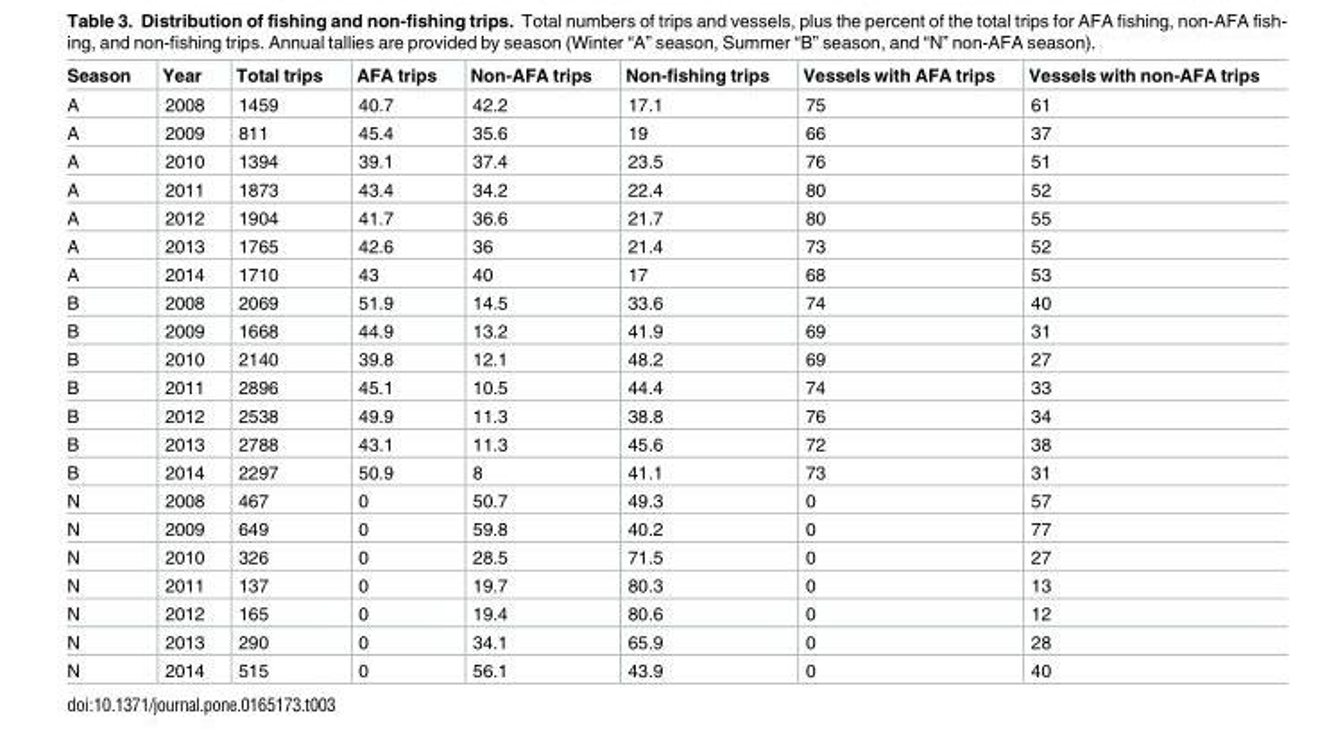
<table><thead><tr><td>Season</td><td>Year</td><td>Total trips</td><td>AFA trips</td><td>Non-AFA trips</td><td>Non-fishing trips</td><td>Vessels with AFA trips</td><td>Vessels with non-AFA trips</td></tr></thead><tbody><tr><td>A</td><td>2008</td><td>1459</td><td>40.7</td><td>42.2</td><td>17.1</td><td>75</td><td>61</td></tr><tr><td>A</td><td>2009</td><td>811</td><td>45.4</td><td>35.6</td><td>19</td><td>66</td><td>37</td></tr><tr><td>A</td><td>2010</td><td>1394</td><td>39.1</td><td>37.4</td><td>23.5</td><td>76</td><td>51</td></tr><tr><td>A</td><td>2011</td><td>1873</td><td>43.4</td><td>34.2</td><td>22.4</td><td>80</td><td>52</td></tr><tr><td>A</td><td>2012</td><td>1904</td><td>41.7</td><td>36.6</td><td>21.7</td><td>80</td><td>55</td></tr><tr><td>A</td><td>2013</td><td>1765</td><td>42.6</td><td>36</td><td>21.4</td><td>73</td><td>52</td></tr><tr><td>A</td><td>2014</td><td>1710</td><td>43</td><td>40</td><td>17</td><td>68</td><td>53</td></tr><tr><td>B</td><td>2008</td><td>2069</td><td>51.9</td><td>14.5</td><td>33.6</td><td>74</td><td>40</td></tr><tr><td>B</td><td>2009</td><td>1668</td><td>44.9</td><td>13.2</td><td>41.9</td><td>69</td><td>31</td></tr><tr><td>B</td><td>2010</td><td>2140</td><td>39.8</td><td>12.1</td><td>48.2</td><td>69</td><td>27</td></tr><tr><td>B</td><td>2011</td><td>2896</td><td>45.1</td><td>10.5</td><td>44.4</td><td>74</td><td>33</td></tr><tr><td>B</td><td>2012</td><td>2538</td><td>49.9</td><td>11.3</td><td>38.8</td><td>76</td><td>34</td></tr><tr><td>B</td><td>2013</td><td>2788</td><td>43.1</td><td>11.3</td><td>45.6</td><td>72</td><td>38</td></tr><tr><td>B</td><td>2014</td><td>2297</td><td>50.9</td><td>8</td><td>41.1</td><td>73</td><td>31</td></tr><tr><td>N</td><td>2008</td><td>467</td><td>0</td><td>50.7</td><td>49.3</td><td>0</td><td>57</td></tr><tr><td>N</td><td>2009</td><td>649</td><td>0</td><td>59.8</td><td>40.2</td><td>0</td><td>77</td></tr><tr><td>N</td><td>2010</td><td>326</td><td>0</td><td>28.5</td><td>71.5</td><td>0</td><td>27</td></tr><tr><td>N</td><td>2011</td><td>137</td><td>0</td><td>19.7</td><td>80.3</td><td>0</td><td>13</td></tr><tr><td>N</td><td>2012</td><td>165</td><td>0</td><td>19.4</td><td>80.6</td><td>0</td><td>12</td></tr><tr><td>N</td><td>2013</td><td>290</td><td>0</td><td>34.1</td><td>65.9</td><td>0</td><td>28</td></tr><tr><td>N</td><td>2014</td><td>515</td><td>0</td><td>56.1</td><td>43.9</td><td>0</td><td>40</td></tr></tbody></table>